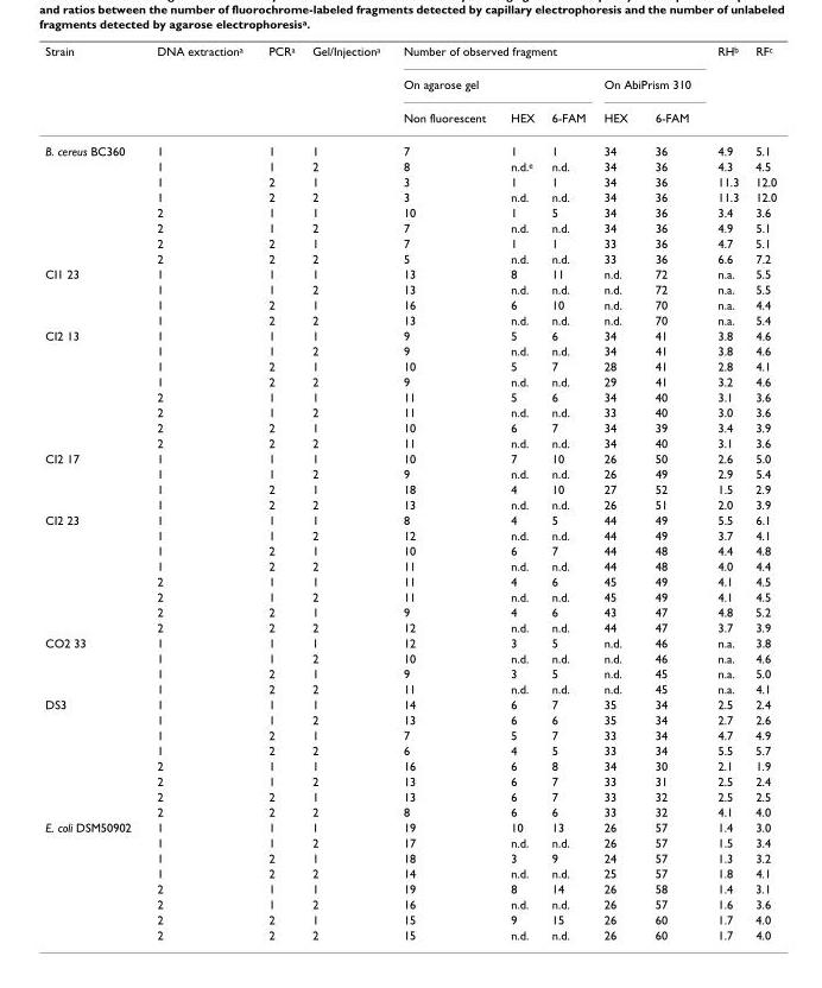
<table><thead><tr><td rowspan="3">Strain</td><td rowspan="3">DNA extraction<sup>a</sup></td><td rowspan="3">PCR<sup>a</sup></td><td rowspan="3">Gel/Injection<sup>a</sup></td><td colspan="5">Number of observed fragment</td><td rowspan="3">RH<sup>b</sup></td><td rowspan="3">RF<sup>c</sup></td></tr><tr><td colspan="3">On agarose gel</td><td colspan="2">On AbiPrism 310</td></tr><tr><td>Non fluorescent</td><td>HEX</td><td>6-FAM</td><td>HEX</td><td>6-FAM</td></tr></thead><tbody><tr><td rowspan="8">B. cereus BC360</td><td>1</td><td>1</td><td>1</td><td>7</td><td>1</td><td>1</td><td>34</td><td>36</td><td>4.9</td><td>5.1</td></tr><tr><td>1</td><td>1</td><td>2</td><td>8</td><td>n.d.<sup>e</sup></td><td>n.d.</td><td>34</td><td>36</td><td>4.3</td><td>4.5</td></tr><tr><td>1</td><td>2</td><td>1</td><td>3</td><td>1</td><td>1</td><td>34</td><td>36</td><td>11.3</td><td>12.0</td></tr><tr><td>1</td><td>2</td><td>2</td><td>3</td><td>n.d.</td><td>n.d.</td><td>34</td><td>36</td><td>11.3</td><td>12.0</td></tr><tr><td>2</td><td>1</td><td>1</td><td>10</td><td>1</td><td>5</td><td>34</td><td>36</td><td>3.4</td><td>3.6</td></tr><tr><td>2</td><td>1</td><td>2</td><td>7</td><td>n.d.</td><td>n.d.</td><td>34</td><td>36</td><td>4.9</td><td>5.1</td></tr><tr><td>2</td><td>2</td><td>1</td><td>7</td><td>1</td><td>1</td><td>33</td><td>36</td><td>4.7</td><td>5.1</td></tr><tr><td>2</td><td>2</td><td>2</td><td>5</td><td>n.d.</td><td>n.d.</td><td>33</td><td>36</td><td>6.6</td><td>7.2</td></tr><tr><td rowspan="4">CI1 23</td><td>1</td><td>1</td><td>1</td><td>13</td><td>8</td><td>11</td><td>n.d.</td><td>72</td><td>n.a.</td><td>5.5</td></tr><tr><td>1</td><td>1</td><td>2</td><td>13</td><td>n.d.</td><td>n.d.</td><td>n.d.</td><td>72</td><td>n.a.</td><td>5.5</td></tr><tr><td>1</td><td>2</td><td>1</td><td>16</td><td>6</td><td>10</td><td>n.d.</td><td>70</td><td>n.a.</td><td>4.4</td></tr><tr><td>1</td><td>2</td><td>2</td><td>13</td><td>n.d.</td><td>n.d.</td><td>n.d.</td><td>70</td><td>n.a.</td><td>5.4</td></tr><tr><td rowspan="8">CI2 13</td><td>1</td><td>1</td><td>1</td><td>9</td><td>5</td><td>6</td><td>34</td><td>41</td><td>3.8</td><td>4.6</td></tr><tr><td>1</td><td>1</td><td>2</td><td>9</td><td>n.d.</td><td>n.d.</td><td>34</td><td>41</td><td>3.8</td><td>4.6</td></tr><tr><td>1</td><td>2</td><td>1</td><td>10</td><td>5</td><td>7</td><td>28</td><td>41</td><td>2.8</td><td>4.1</td></tr><tr><td>1</td><td>2</td><td>2</td><td>9</td><td>n.d.</td><td>n.d.</td><td>29</td><td>41</td><td>3.2</td><td>4.6</td></tr><tr><td>2</td><td>1</td><td>1</td><td>11</td><td>5</td><td>6</td><td>34</td><td>40</td><td>3.1</td><td>3.6</td></tr><tr><td>2</td><td>1</td><td>2</td><td>11</td><td>n.d.</td><td>n.d.</td><td>33</td><td>40</td><td>3.0</td><td>3.6</td></tr><tr><td>2</td><td>2</td><td>1</td><td>10</td><td>6</td><td>7</td><td>34</td><td>39</td><td>3.4</td><td>3.9</td></tr><tr><td>2</td><td>2</td><td>2</td><td>11</td><td>n.d.</td><td>n.d.</td><td>34</td><td>40</td><td>3.1</td><td>3.6</td></tr><tr><td rowspan="4">CI2 17</td><td>1</td><td>1</td><td>1</td><td>10</td><td>7</td><td>10</td><td>26</td><td>50</td><td>2.6</td><td>5.0</td></tr><tr><td>1</td><td>1</td><td>2</td><td>9</td><td>n.d.</td><td>n.d.</td><td>26</td><td>49</td><td>2.9</td><td>5.4</td></tr><tr><td>1</td><td>2</td><td>1</td><td>18</td><td>4</td><td>10</td><td>27</td><td>52</td><td>1.5</td><td>2.9</td></tr><tr><td>1</td><td>2</td><td>2</td><td>13</td><td>n.d.</td><td>n.d.</td><td>26</td><td>51</td><td>2.0</td><td>3.9</td></tr><tr><td rowspan="8">CI2 23</td><td>1</td><td>1</td><td>1</td><td>8</td><td>4</td><td>5</td><td>44</td><td>49</td><td>5.5</td><td>6.1</td></tr><tr><td>1</td><td>1</td><td>2</td><td>12</td><td>n.d.</td><td>n.d.</td><td>44</td><td>49</td><td>3.7</td><td>4.1</td></tr><tr><td>1</td><td>2</td><td>1</td><td>10</td><td>6</td><td>7</td><td>44</td><td>48</td><td>4.4</td><td>4.8</td></tr><tr><td>1</td><td>2</td><td>2</td><td>11</td><td>n.d.</td><td>n.d.</td><td>44</td><td>48</td><td>4.0</td><td>4.4</td></tr><tr><td>2</td><td>1</td><td>1</td><td>11</td><td>4</td><td>6</td><td>45</td><td>49</td><td>4.1</td><td>4.5</td></tr><tr><td>2</td><td>1</td><td>2</td><td>11</td><td>n.d.</td><td>n.d.</td><td>45</td><td>49</td><td>4.1</td><td>4.5</td></tr><tr><td>2</td><td>2</td><td>1</td><td>9</td><td>4</td><td>6</td><td>43</td><td>47</td><td>4.8</td><td>5.2</td></tr><tr><td>2</td><td>2</td><td>2</td><td>12</td><td>n.d.</td><td>n.d.</td><td>44</td><td>47</td><td>3.7</td><td>3.9</td></tr><tr><td rowspan="4">CO2 33</td><td>1</td><td>1</td><td>1</td><td>12</td><td>3</td><td>5</td><td>n.d.</td><td>46</td><td>n.a.</td><td>3.8</td></tr><tr><td>1</td><td>1</td><td>2</td><td>10</td><td>n.d.</td><td>n.d.</td><td>n.d.</td><td>46</td><td>n.a.</td><td>4.6</td></tr><tr><td>1</td><td>2</td><td>1</td><td>9</td><td>3</td><td>5</td><td>n.d.</td><td>45</td><td>n.a.</td><td>5.0</td></tr><tr><td>1</td><td>2</td><td>2</td><td>11</td><td>n.d.</td><td>n.d.</td><td>n.d.</td><td>45</td><td>n.a.</td><td>4.1</td></tr><tr><td rowspan="8">DS3</td><td>1</td><td>1</td><td>1</td><td>14</td><td>6</td><td>7</td><td>35</td><td>34</td><td>2.5</td><td>2.4</td></tr><tr><td>1</td><td>1</td><td>2</td><td>13</td><td>6</td><td>6</td><td>35</td><td>34</td><td>2.7</td><td>2.6</td></tr><tr><td>1</td><td>2</td><td>1</td><td>7</td><td>5</td><td>7</td><td>33</td><td>34</td><td>4.7</td><td>4.9</td></tr><tr><td>1</td><td>2</td><td>2</td><td>6</td><td>4</td><td>5</td><td>33</td><td>34</td><td>5.5</td><td>5.7</td></tr><tr><td>2</td><td>1</td><td>1</td><td>16</td><td>6</td><td>8</td><td>34</td><td>30</td><td>2.1</td><td>1.9</td></tr><tr><td>2</td><td>1</td><td>2</td><td>13</td><td>6</td><td>7</td><td>33</td><td>31</td><td>2.5</td><td>2.4</td></tr><tr><td>2</td><td>2</td><td>1</td><td>13</td><td>6</td><td>7</td><td>33</td><td>32</td><td>2.5</td><td>2.5</td></tr><tr><td>2</td><td>2</td><td>2</td><td>8</td><td>6</td><td>6</td><td>33</td><td>32</td><td>4.1</td><td>4.0</td></tr><tr><td rowspan="8">E. coli DSM50902</td><td>1</td><td>1</td><td>1</td><td>19</td><td>10</td><td>13</td><td>26</td><td>57</td><td>1.4</td><td>3.0</td></tr><tr><td>1</td><td>1</td><td>2</td><td>17</td><td>n.d.</td><td>n.d.</td><td>26</td><td>57</td><td>1.5</td><td>3.4</td></tr><tr><td>1</td><td>2</td><td>1</td><td>18</td><td>3</td><td>9</td><td>24</td><td>57</td><td>1.3</td><td>3.2</td></tr><tr><td>1</td><td>2</td><td>2</td><td>14</td><td>n.d.</td><td>n.d.</td><td>25</td><td>57</td><td>1.8</td><td>4.1</td></tr><tr><td>2</td><td>1</td><td>1</td><td>19</td><td>8</td><td>14</td><td>26</td><td>58</td><td>1.4</td><td>3.1</td></tr><tr><td>2</td><td>1</td><td>2</td><td>16</td><td>n.d.</td><td>n.d.</td><td>26</td><td>57</td><td>1.6</td><td>3.6</td></tr><tr><td>2</td><td>2</td><td>1</td><td>15</td><td>9</td><td>15</td><td>26</td><td>60</td><td>1.7</td><td>4.0</td></tr><tr><td>2</td><td>2</td><td>2</td><td>15</td><td>n.d.</td><td>n.d.</td><td>26</td><td>60</td><td>1.7</td><td>4.0</td></tr></tbody></table>